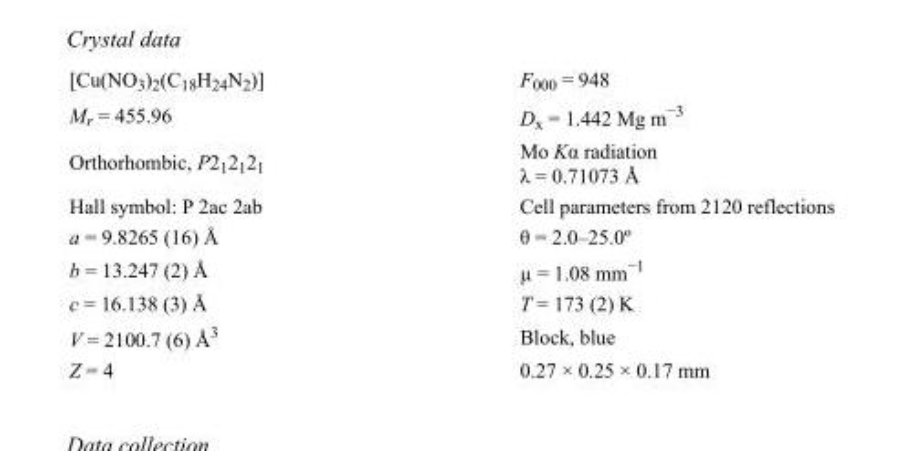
<table><tbody><tr><td>[Cu(NO<sub>3</sub>)<sub>2</sub>(C<sub>18</sub>H<sub>24</sub>N<sub>2</sub>)]</td><td>F000 = 948</td></tr><tr><td>M<sub>r</sub> = 455.96</td><td>D<sub>x</sub> = 1.442 Mg m<sup>−3</sup></td></tr><tr><td>Orthorhombic, P2<sub>1</sub>2<sub>1</sub>2<sub>1</sub></td><td>Mo Kα radiation λ = 0.71073 Å</td></tr><tr><td>Hall symbol: P 2ac 2ab</td><td>Cell parameters from 2120 reflections</td></tr><tr><td>a = 9.8265 (16) Å</td><td>θ = 2.0–25.0º</td></tr><tr><td>b = 13.247 (2) Å</td><td>µ = 1.08 mm<sup>−1</sup></td></tr><tr><td>c = 16.138 (3) Å</td><td>T = 173 (2) K</td></tr><tr><td>V = 2100.7 (6) Å<sup>3</sup></td><td>Block, blue</td></tr><tr><td>Z = 4</td><td>0.27 × 0.25 × 0.17 mm</td></tr></tbody></table>